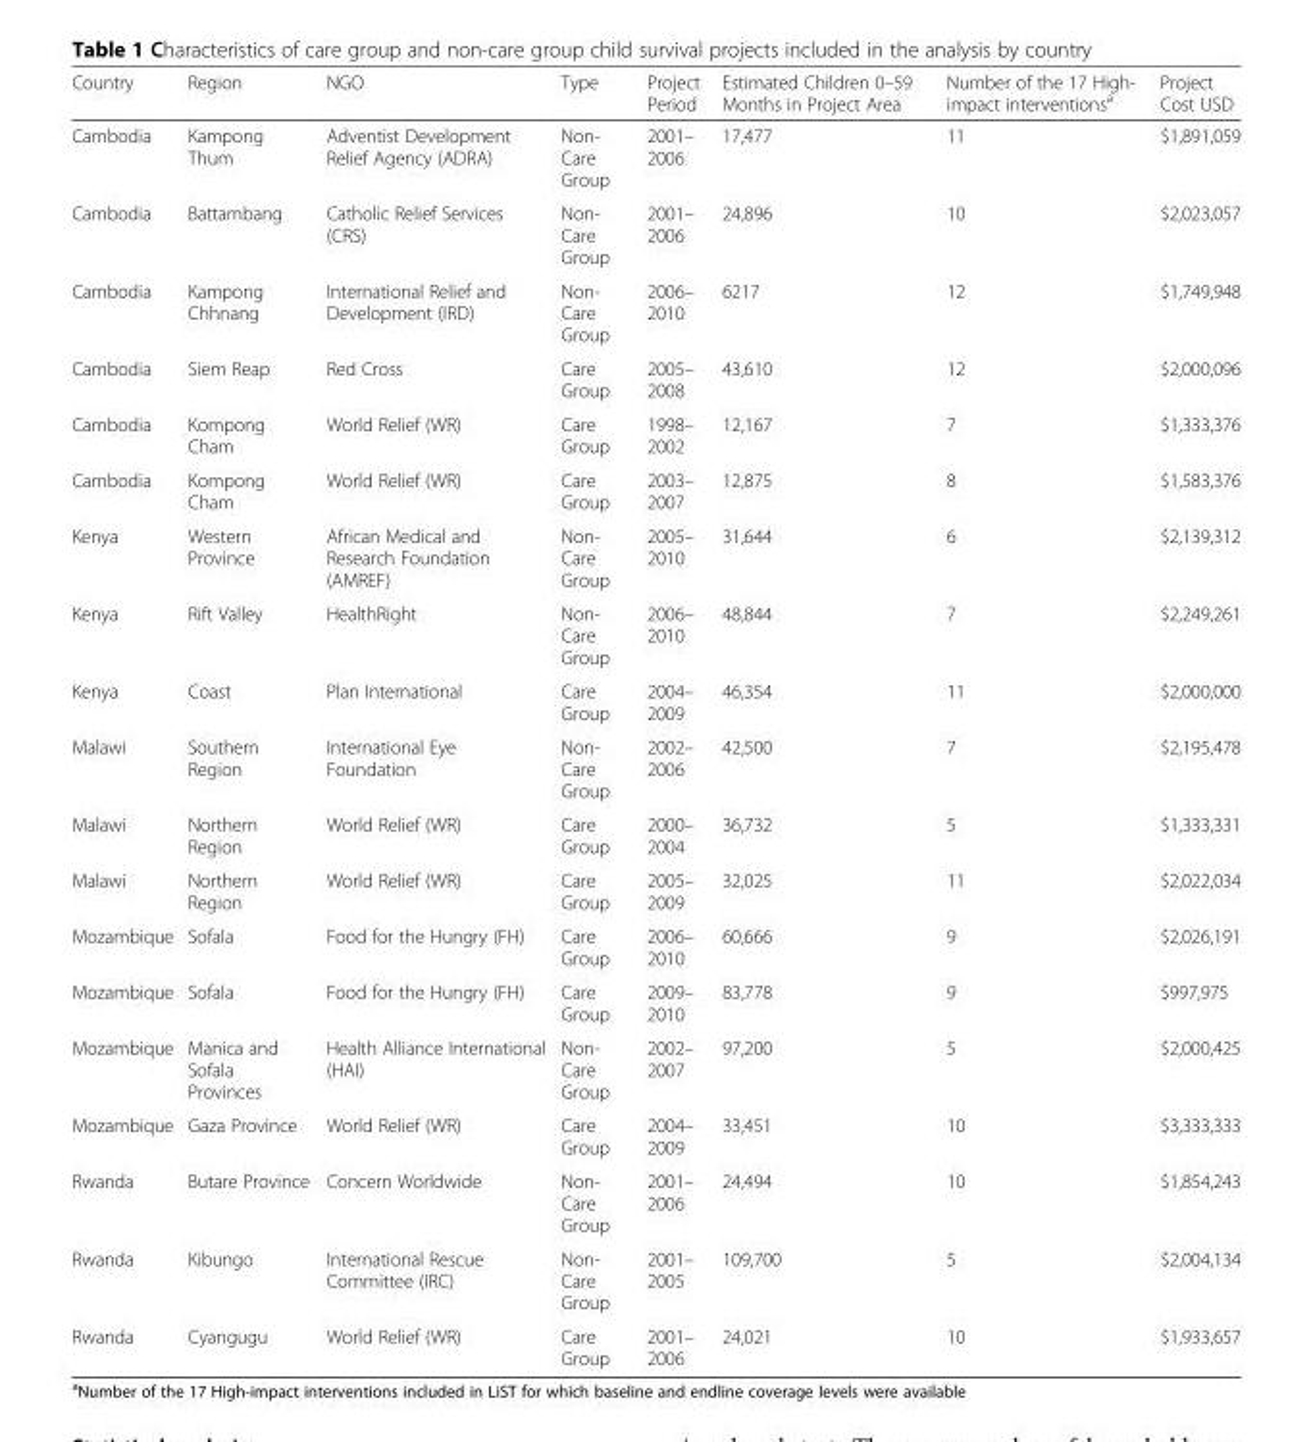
<table><thead><tr><td>Country</td><td>Region</td><td>NGO</td><td>Type</td><td>Project Period</td><td>Estimated Children 0–59 Months in Project Area</td><td>Number of the 17 High- impact interventions<sup>a</sup></td><td>Project Cost USD</td></tr></thead><tbody><tr><td>Cambodia</td><td>Kampong Thum</td><td>Adventist Development Relief Agency (ADRA)</td><td>Non- Care Group</td><td>2001– 2006</td><td>17,477</td><td>11</td><td>$1,891,059</td></tr><tr><td>Cambodia</td><td>Battambang</td><td>Catholic Relief Services (CRS)</td><td>Non- Care Group</td><td>2001– 2006</td><td>24,896</td><td>10</td><td>$2,023,057</td></tr><tr><td>Cambodia</td><td>Kampong Chhnang</td><td>International Relief and Development (IRD)</td><td>Non- Care Group</td><td>2006– 2010</td><td>6217</td><td>12</td><td>$1,749,948</td></tr><tr><td>Cambodia</td><td>Siem Reap</td><td>Red Cross</td><td>Care Group</td><td>2005– 2008</td><td>43,610</td><td>12</td><td>$2,000,096</td></tr><tr><td>Cambodia</td><td>Kompong Cham</td><td>World Relief (WR)</td><td>Care Group</td><td>1998– 2002</td><td>12,167</td><td>7</td><td>$1,333,376</td></tr><tr><td>Cambodia</td><td>Kompong Cham</td><td>World Relief (WR)</td><td>Care Group</td><td>2003– 2007</td><td>12,875</td><td>8</td><td>$1,583,376</td></tr><tr><td>Kenya</td><td>Western Province</td><td>African Medical and Research Foundation (AMREF)</td><td>Non- Care Group</td><td>2005– 2010</td><td>31,644</td><td>6</td><td>$2,139,312</td></tr><tr><td>Kenya</td><td>Rift Valley</td><td>HealthRight</td><td>Non- Care Group</td><td>2006– 2010</td><td>48,844</td><td>7</td><td>$2,249,261</td></tr><tr><td>Kenya</td><td>Coast</td><td>Plan International</td><td>Care Group</td><td>2004– 2009</td><td>46,354</td><td>11</td><td>$2,000,000</td></tr><tr><td>Malawi</td><td>Southern Region</td><td>International Eye Foundation</td><td>Non- Care Group</td><td>2002– 2006</td><td>42,500</td><td>7</td><td>$2,195,478</td></tr><tr><td>Malawi</td><td>Northern Region</td><td>World Relief (WR)</td><td>Care Group</td><td>2000– 2004</td><td>36,732</td><td>5</td><td>$1,333,331</td></tr><tr><td>Malawi</td><td>Northern Region</td><td>World Relief (WR)</td><td>Care Group</td><td>2005– 2009</td><td>32,025</td><td>11</td><td>$2,022,034</td></tr><tr><td>Mozambique</td><td>Sofala</td><td>Food for the Hungry (FH)</td><td>Care Group</td><td>2006– 2010</td><td>60,666</td><td>9</td><td>$2,026,191</td></tr><tr><td>Mozambique</td><td>Sofala</td><td>Food for the Hungry (FH)</td><td>Care Group</td><td>2009– 2010</td><td>83,778</td><td>9</td><td>$997,975</td></tr><tr><td>Mozambique</td><td>Manica and Sofala Provinces</td><td>Health Alliance International (HAI)</td><td>Non- Care Group</td><td>2002– 2007</td><td>97,200</td><td>5</td><td>$2,000,425</td></tr><tr><td>Mozambique</td><td>Gaza Province</td><td>World Relief (WR)</td><td>Care Group</td><td>2004– 2009</td><td>33,451</td><td>10</td><td>$3,333,333</td></tr><tr><td>Rwanda</td><td>Butare Province</td><td>Concern Worldwide</td><td>Non- Care Group</td><td>2001– 2006</td><td>24,494</td><td>10</td><td>$1,854,243</td></tr><tr><td>Rwanda</td><td>Kibungo</td><td>International Rescue Committee (IRC)</td><td>Non- Care Group</td><td>2001– 2005</td><td>109,700</td><td>5</td><td>$2,004,134</td></tr><tr><td>Rwanda</td><td>Cyangugu</td><td>World Relief (WR)</td><td>Care Group</td><td>2001– 2006</td><td>24,021</td><td>10</td><td>$1,933,657</td></tr></tbody></table>